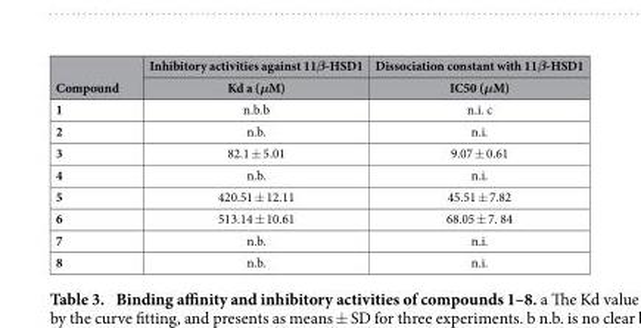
<table><thead><tr><td rowspan="2">Compound</td><td rowspan="2">Inhibitory activities against 11β-HSD1 Kd a (μM)</td><td rowspan="2">Dissociation constant with 11β-HSD1 IC50 (μM)</td></tr><tr></tr></thead><tbody><tr><td>1</td><td>n.b.b</td><td>n.i. c</td></tr><tr><td>2</td><td>n.b.</td><td>n.i.</td></tr><tr><td>3</td><td>82.1 ± 5.01</td><td>9.07 ± 0.61</td></tr><tr><td>4</td><td>n.b.</td><td>n.i.</td></tr><tr><td>5</td><td>420.51 ± 12.11</td><td>45.51 ± 7.82</td></tr><tr><td>6</td><td>513.14 ± 10.61</td><td>68.05 ± 7. 84</td></tr><tr><td>7</td><td>n.b.</td><td>n.i.</td></tr><tr><td>8</td><td>n.b.</td><td>n.i.</td></tr></tbody></table>